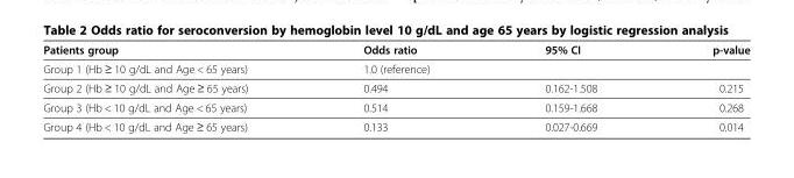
<table><thead><tr><td>Patients group</td><td>Odds ratio</td><td>95% CI</td><td>p-value</td></tr></thead><tbody><tr><td>Group 1 (Hb ≥ 10 g/dL and Age &lt; 65 years)</td><td>1.0 (reference)</td><td></td><td></td></tr><tr><td>Group 2 (Hb ≥ 10 g/dL and Age ≥ 65 years)</td><td>0.494</td><td>0.162-1.508</td><td>0.215</td></tr><tr><td>Group 3 (Hb &lt; 10 g/dL and Age &lt; 65 years)</td><td>0.514</td><td>0.159-1.668</td><td>0.268</td></tr><tr><td>Group 4 (Hb &lt; 10 g/dL and Age ≥ 65 years)</td><td>0.133</td><td>0.027-0.669</td><td>0.014</td></tr></tbody></table>